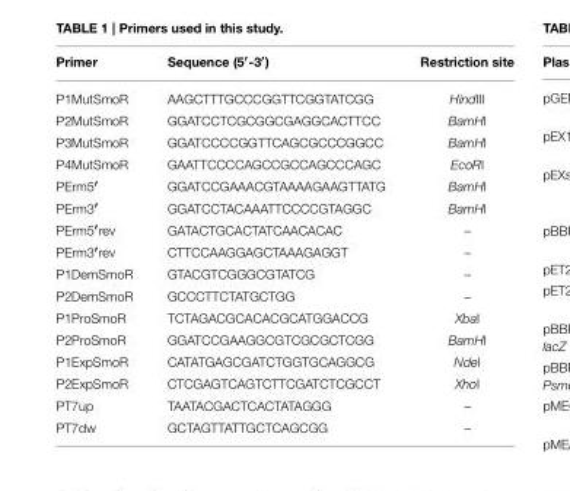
<table><thead><tr><td>Primer</td><td>Sequence (5′-3′)</td><td>Restriction site</td></tr></thead><tbody><tr><td>P1MutSmoR</td><td>AAGCTTTGCCCGGTTCGGTATCGG</td><td>HindIII</td></tr><tr><td>P2MutSmoR</td><td>GGATCCTCGCGGCGAGGCACTTCC</td><td>BamHI</td></tr><tr><td>P3MutSmoR</td><td>GGATCCCCGGTTCAGCGCCCGGCC</td><td>BamHI</td></tr><tr><td>P4MutSmoR</td><td>GAATTCCCCAGCCGCCAGCCCAGC</td><td>EcoRI</td></tr><tr><td>PErm5′</td><td>GGATCCGAAACGTAAAAGAAGTTATG</td><td>BamHI</td></tr><tr><td>PErm3′</td><td>GGATCCTACAAATTCCCCGTAGGC</td><td>BamHI</td></tr><tr><td>PErm5′rev</td><td>GATACTGCACTATCAACACAC</td><td>–</td></tr><tr><td>PErm3′rev</td><td>CTTCCAAGGAGCTAAAGAGGT</td><td>–</td></tr><tr><td>P1DemSmoR</td><td>GTACGTCGGGCGTATCG</td><td>–</td></tr><tr><td>P2DemSmoR</td><td>GCCCTTCTATGCTGG</td><td>–</td></tr><tr><td>P1ProSmoR</td><td>TCTAGACGCACACGCATGGACCG</td><td>XbaI</td></tr><tr><td>P2ProSmoR</td><td>GGATCCGAAGGCGTCGCGCTCGG</td><td>BamHI</td></tr><tr><td>P1ExpSmoR</td><td>CATATGAGCGATCTGGTGCAGGCG</td><td>NdeI</td></tr><tr><td>P2ExpSmoR</td><td>CTCGAGTCAGTCTTCGATCTCGCCT</td><td>XhoI</td></tr><tr><td>PT7up</td><td>TAATACGACTCACTATAGGG</td><td>–</td></tr><tr><td>PT7dw</td><td>GCTAGTTATTGCTCAGCGG</td><td>–</td></tr></tbody></table>